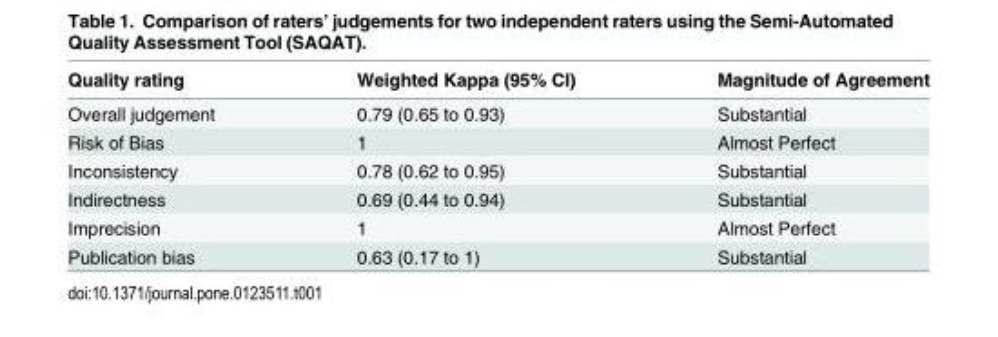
<table><thead><tr><td>Quality rating</td><td>Weighted Kappa (95% CI)</td><td>Magnitude of Agreement</td></tr></thead><tbody><tr><td>Overall judgement</td><td>0.79 (0.65 to 0.93)</td><td>Substantial</td></tr><tr><td>Risk of Bias</td><td>1</td><td>Almost Perfect</td></tr><tr><td>Inconsistency</td><td>0.78 (0.62 to 0.95)</td><td>Substantial</td></tr><tr><td>Indirectness</td><td>0.69 (0.44 to 0.94)</td><td>Substantial</td></tr><tr><td>Imprecision</td><td>1</td><td>Almost Perfect</td></tr><tr><td>Publication bias</td><td>0.63 (0.17 to 1)</td><td>Substantial</td></tr></tbody></table>